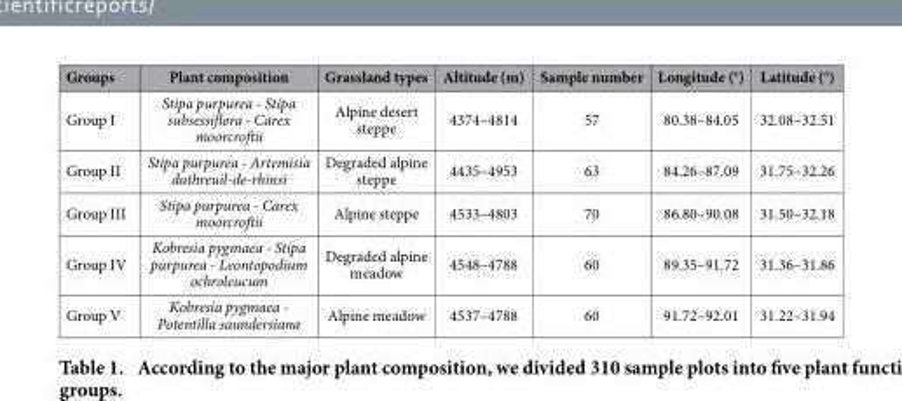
<table><thead><tr><td>Groups</td><td>Plant composition</td><td>Grassland types</td><td>Altitude (m)</td><td>Sample number</td><td>Longitude (°)</td><td>Latitude (°)</td></tr></thead><tbody><tr><td>Group I</td><td>Stipa purpurea - Stipa subsessiflora - Carex moorcroftii</td><td>Alpine desert steppe</td><td>4374–4814</td><td>57</td><td>80.38–84.05</td><td>32.08–32.51</td></tr><tr><td>Group II</td><td>Stipa purpurea - Artemisia duthreuil-de-rhinsi</td><td>Degraded alpine steppe</td><td>4435–4953</td><td>63</td><td>84.26–87.09</td><td>31.75–32.26</td></tr><tr><td>Group III</td><td>Stipa purpurea - Carex moorcroftii</td><td>Alpine steppe</td><td>4533–4803</td><td>70</td><td>86.80–90.08</td><td>31.50–32.18</td></tr><tr><td>Group IV</td><td>Kobresia pygmaea - Stipa purpurea - Leontopodium ochroleucum</td><td>Degraded alpine meadow</td><td>4548–4788</td><td>60</td><td>89.35–91.72</td><td>31.36–31.86</td></tr><tr><td>Group V</td><td>Kobresia pygmaea - Potentilla saundersiana</td><td>Alpine meadow</td><td>4537–4788</td><td>60</td><td>91.72–92.01</td><td>31.22–31.94</td></tr></tbody></table>